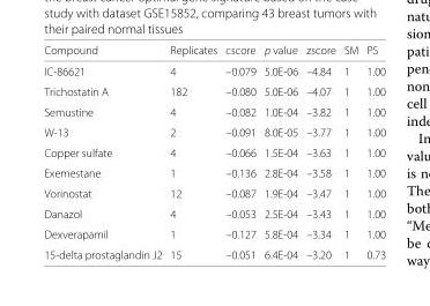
<table><thead><tr><td>Compound</td><td>Replicates</td><td>cscore</td><td>p value</td><td>zscore</td><td>SM</td><td>PS</td></tr></thead><tbody><tr><td>IC-86621</td><td>4</td><td>–0.079</td><td>5.0E-06</td><td>–4.84</td><td>1</td><td>1.00</td></tr><tr><td>Trichostatin A</td><td>182</td><td>–0.080</td><td>5.0E-06</td><td>–4.07</td><td>1</td><td>1.00</td></tr><tr><td>Semustine</td><td>4</td><td>–0.082</td><td>1.0E-04</td><td>–3.82</td><td>1</td><td>1.00</td></tr><tr><td>W-13</td><td>2</td><td>–0.091</td><td>8.0E-05</td><td>–3.77</td><td>1</td><td>1.00</td></tr><tr><td>Copper sulfate</td><td>4</td><td>–0.066</td><td>1.5E-04</td><td>–3.63</td><td>1</td><td>1.00</td></tr><tr><td>Exemestane</td><td>1</td><td>–0.136</td><td>2.8E-04</td><td>–3.58</td><td>1</td><td>1.00</td></tr><tr><td>Vorinostat</td><td>12</td><td>–0.087</td><td>1.9E-04</td><td>–3.47</td><td>1</td><td>1.00</td></tr><tr><td>Danazol</td><td>4</td><td>–0.053</td><td>2.5E-04</td><td>–3.43</td><td>1</td><td>1.00</td></tr><tr><td>Dexverapamil</td><td>1</td><td>–0.127</td><td>5.8E-04</td><td>–3.34</td><td>1</td><td>1.00</td></tr><tr><td>15-delta prostaglandin J2</td><td>15</td><td>–0.051</td><td>6.4E-04</td><td>–3.20</td><td>1</td><td>0.73</td></tr></tbody></table>